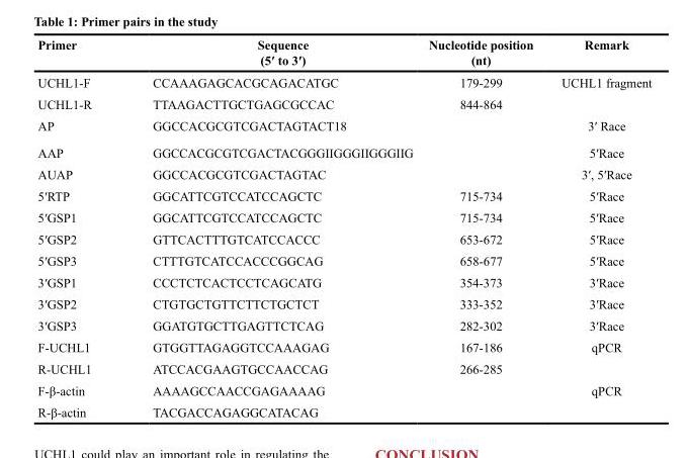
<table><thead><tr><td>Primer</td><td>Sequence (5′ to 3′)</td><td>Nucleotide position (nt)</td><td>Remark</td></tr></thead><tbody><tr><td>UCHL1-F</td><td>CCAAAGAGCACGCAGACATGC</td><td>179-299</td><td>UCHL1 fragment</td></tr><tr><td>UCHL1-R</td><td>TTAAGACTTGCTGAGCGCCAC</td><td>844-864</td><td></td></tr><tr><td>AP</td><td>GGCCACGCGTCGACTAGTACT18</td><td></td><td>3′ Race</td></tr><tr><td>AAP</td><td>GGCCACGCGTCGACTACGGGIIGGGIIGGGIIG</td><td></td><td>5′Race</td></tr><tr><td>AUAP</td><td>GGCCACGCGTCGACTAGTAC</td><td></td><td>3′, 5′Race</td></tr><tr><td>5′RTP</td><td>GGCATTCGTCCATCCAGCTC</td><td>715-734</td><td>5′Race</td></tr><tr><td>5′GSP1</td><td>GGCATTCGTCCATCCAGCTC</td><td>715-734</td><td>5′Race</td></tr><tr><td>5′GSP2</td><td>GTTCACTTTGTCATCCACCC</td><td>653-672</td><td>5′Race</td></tr><tr><td>5′GSP3</td><td>CTTTGTCATCCACCCGGCAG</td><td>658-677</td><td>5′Race</td></tr><tr><td>3′GSP1</td><td>CCCTCTCACTCCTCAGCATG</td><td>354-373</td><td>3′Race</td></tr><tr><td>3′GSP2</td><td>CTGTGCTGTTCTTCTGCTCT</td><td>333-352</td><td>3′Race</td></tr><tr><td>3′GSP3</td><td>GGATGTGCTTGAGTTCTCAG</td><td>282-302</td><td>3′Race</td></tr><tr><td>F-UCHL1</td><td>GTGGTTAGAGGTCCAAAGAG</td><td>167-186</td><td>qPCR</td></tr><tr><td>R-UCHL1</td><td>ATCCACGAAGTGCCAACCAG</td><td>266-285</td><td></td></tr><tr><td>F-β-actin</td><td>AAAAGCCAACCGAGAAAAG</td><td></td><td>qPCR</td></tr><tr><td>R-β-actin</td><td>TACGACCAGAGGCATACAG</td><td></td><td></td></tr></tbody></table>